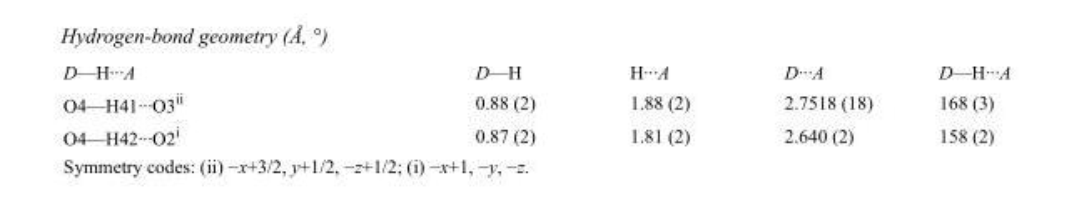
<table><tbody><tr><td>D—H···A</td><td>D—H</td><td>H···A</td><td>D···A</td><td>D—H···A</td></tr><tr><td>O4—H41···O3<sup>ii</sup></td><td>0.88 (2)</td><td>1.88 (2)</td><td>2.7518 (18)</td><td>168 (3)</td></tr><tr><td>O4—H42···O2<sup>i</sup></td><td>0.87 (2)</td><td>1.81 (2)</td><td>2.640 (2)</td><td>158 (2)</td></tr></tbody></table>